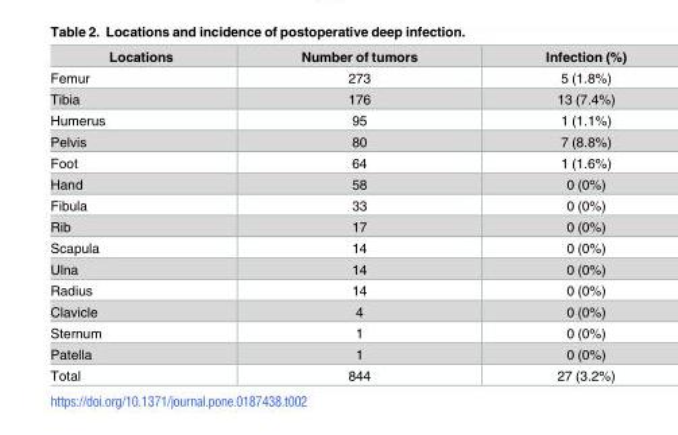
<table><thead><tr><td>Locations</td><td>Number of tumors</td><td>Infection (%)</td></tr></thead><tbody><tr><td>Femur</td><td>273</td><td>5 (1.8%)</td></tr><tr><td>Tibia</td><td>176</td><td>13 (7.4%)</td></tr><tr><td>Humerus</td><td>95</td><td>1 (1.1%)</td></tr><tr><td>Pelvis</td><td>80</td><td>7 (8.8%)</td></tr><tr><td>Foot</td><td>64</td><td>1 (1.6%)</td></tr><tr><td>Hand</td><td>58</td><td>0 (0%)</td></tr><tr><td>Fibula</td><td>33</td><td>0 (0%)</td></tr><tr><td>Rib</td><td>17</td><td>0 (0%)</td></tr><tr><td>Scapula</td><td>14</td><td>0 (0%)</td></tr><tr><td>Ulna</td><td>14</td><td>0 (0%)</td></tr><tr><td>Radius</td><td>14</td><td>0 (0%)</td></tr><tr><td>Clavicle</td><td>4</td><td>0 (0%)</td></tr><tr><td>Sternum</td><td>1</td><td>0 (0%)</td></tr><tr><td>Patella</td><td>1</td><td>0 (0%)</td></tr><tr><td>Total</td><td>844</td><td>27 (3.2%)</td></tr></tbody></table>